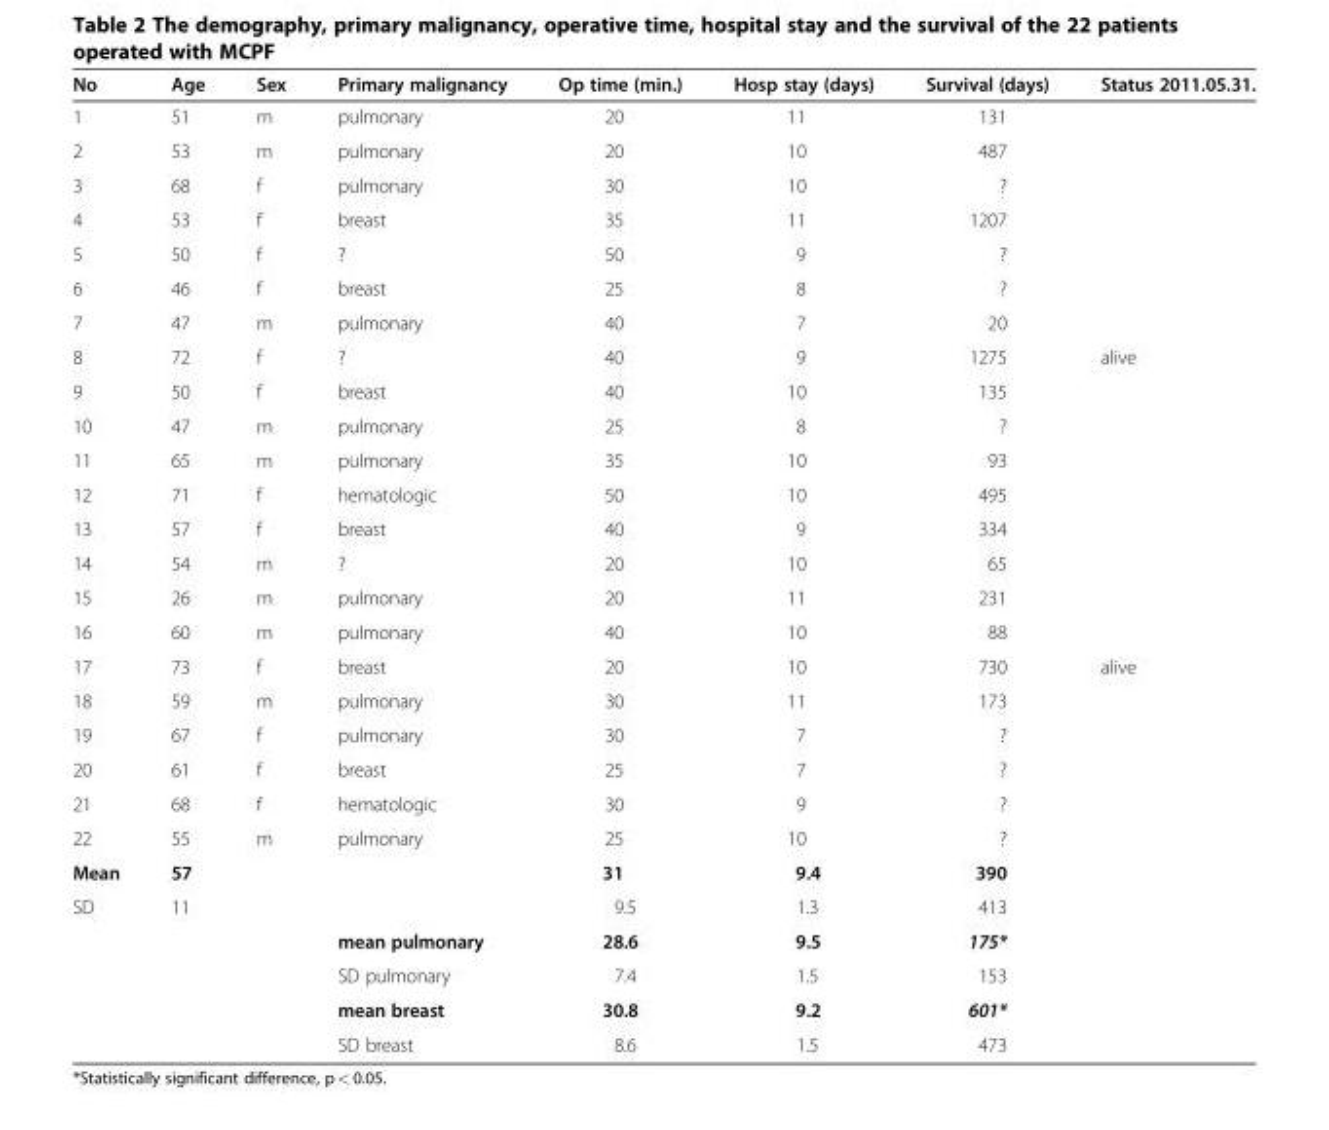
<table><thead><tr><td>No</td><td>Age</td><td>Sex</td><td>Primary malignancy</td><td>Op time (min.)</td><td>Hosp stay (days)</td><td>Survival (days)</td><td>Status 2011.05.31.</td></tr></thead><tbody><tr><td>1</td><td>51</td><td>m</td><td>pulmonary</td><td>20</td><td>11</td><td>131</td><td></td></tr><tr><td>2</td><td>53</td><td>m</td><td>pulmonary</td><td>20</td><td>10</td><td>487</td><td></td></tr><tr><td>3</td><td>68</td><td>f</td><td>pulmonary</td><td>30</td><td>10</td><td>?</td><td></td></tr><tr><td>4</td><td>53</td><td>f</td><td>breast</td><td>35</td><td>11</td><td>1207</td><td></td></tr><tr><td>5</td><td>50</td><td>f</td><td>?</td><td>50</td><td>9</td><td>?</td><td></td></tr><tr><td>6</td><td>46</td><td>f</td><td>breast</td><td>25</td><td>8</td><td>?</td><td></td></tr><tr><td>7</td><td>47</td><td>m</td><td>pulmonary</td><td>40</td><td>7</td><td>20</td><td></td></tr><tr><td>8</td><td>72</td><td>f</td><td>?</td><td>40</td><td>9</td><td>1275</td><td>alive</td></tr><tr><td>9</td><td>50</td><td>f</td><td>breast</td><td>40</td><td>10</td><td>135</td><td></td></tr><tr><td>10</td><td>47</td><td>m</td><td>pulmonary</td><td>25</td><td>8</td><td>?</td><td></td></tr><tr><td>11</td><td>65</td><td>m</td><td>pulmonary</td><td>35</td><td>10</td><td>93</td><td></td></tr><tr><td>12</td><td>71</td><td>f</td><td>hematologic</td><td>50</td><td>10</td><td>495</td><td></td></tr><tr><td>13</td><td>57</td><td>f</td><td>breast</td><td>40</td><td>9</td><td>334</td><td></td></tr><tr><td>14</td><td>54</td><td>m</td><td>?</td><td>20</td><td>10</td><td>65</td><td></td></tr><tr><td>15</td><td>26</td><td>m</td><td>pulmonary</td><td>20</td><td>11</td><td>231</td><td></td></tr><tr><td>16</td><td>60</td><td>m</td><td>pulmonary</td><td>40</td><td>10</td><td>88</td><td></td></tr><tr><td>17</td><td>73</td><td>f</td><td>breast</td><td>20</td><td>10</td><td>730</td><td>alive</td></tr><tr><td>18</td><td>59</td><td>m</td><td>pulmonary</td><td>30</td><td>11</td><td>173</td><td></td></tr><tr><td>19</td><td>67</td><td>f</td><td>pulmonary</td><td>30</td><td>7</td><td>?</td><td></td></tr><tr><td>20</td><td>61</td><td>f</td><td>breast</td><td>25</td><td>7</td><td>?</td><td></td></tr><tr><td>21</td><td>68</td><td>f</td><td>hematologic</td><td>30</td><td>9</td><td>?</td><td></td></tr><tr><td>22</td><td>55</td><td>m</td><td>pulmonary</td><td>25</td><td>10</td><td>?</td><td></td></tr><tr><td>Mean</td><td>57</td><td></td><td></td><td>31</td><td>9.4</td><td>390</td><td></td></tr><tr><td rowspan="5">SD</td><td>11</td><td></td><td></td><td>9.5</td><td>1.3</td><td>413</td><td></td></tr><tr><td></td><td></td><td>mean pulmonary</td><td>28.6</td><td>9.5</td><td>175*</td><td></td></tr><tr><td></td><td></td><td>SD pulmonary</td><td>7.4</td><td>1.5</td><td>153</td><td></td></tr><tr><td></td><td></td><td>mean breast</td><td>30.8</td><td>9.2</td><td>601*</td><td></td></tr><tr><td></td><td></td><td>SD breast</td><td>8.6</td><td>1.5</td><td>473</td><td></td></tr></tbody></table>